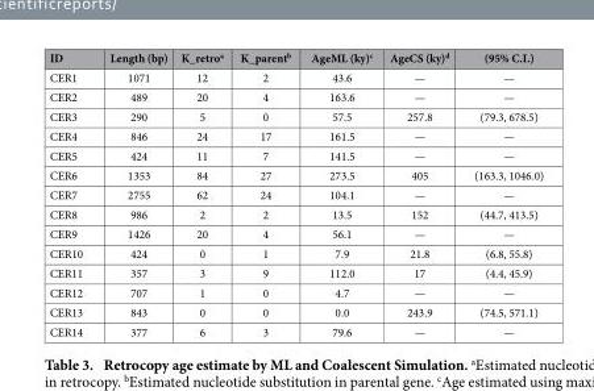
<table><thead><tr><td>ID</td><td>Length (bp)</td><td>K_retro<sup>a</sup></td><td>K_parent<sup>b</sup></td><td>AgeML (ky)<sup>c</sup></td><td>AgeCS (ky)<sup>d</sup></td><td>(95% C.I.)</td></tr></thead><tbody><tr><td>CER1</td><td>1071</td><td>12</td><td>2</td><td>43.6</td><td>—</td><td>—</td></tr><tr><td>CER2</td><td>489</td><td>20</td><td>4</td><td>163.6</td><td>—</td><td>—</td></tr><tr><td>CER3</td><td>290</td><td>5</td><td>0</td><td>57.5</td><td>257.8</td><td>(79.3, 678.5)</td></tr><tr><td>CER4</td><td>846</td><td>24</td><td>17</td><td>161.5</td><td>—</td><td>—</td></tr><tr><td>CER5</td><td>424</td><td>11</td><td>7</td><td>141.5</td><td>—</td><td>—</td></tr><tr><td>CER6</td><td>1353</td><td>84</td><td>27</td><td>273.5</td><td>405</td><td>(163.3, 1046.0)</td></tr><tr><td>CER7</td><td>2755</td><td>62</td><td>24</td><td>104.1</td><td>—</td><td>—</td></tr><tr><td>CER8</td><td>986</td><td>2</td><td>2</td><td>13.5</td><td>152</td><td>(44.7, 413.5)</td></tr><tr><td>CER9</td><td>1426</td><td>20</td><td>4</td><td>56.1</td><td>—</td><td>—</td></tr><tr><td>CER10</td><td>424</td><td>0</td><td>1</td><td>7.9</td><td>21.8</td><td>(6.8, 55.8)</td></tr><tr><td>CER11</td><td>357</td><td>3</td><td>9</td><td>112.0</td><td>17</td><td>(4.4, 45.9)</td></tr><tr><td>CER12</td><td>707</td><td>1</td><td>0</td><td>4.7</td><td>—</td><td>—</td></tr><tr><td>CER13</td><td>843</td><td>0</td><td>0</td><td>0.0</td><td>243.9</td><td>(74.5, 571.1)</td></tr><tr><td>CER14</td><td>377</td><td>6</td><td>3</td><td>79.6</td><td>—</td><td>—</td></tr></tbody></table>